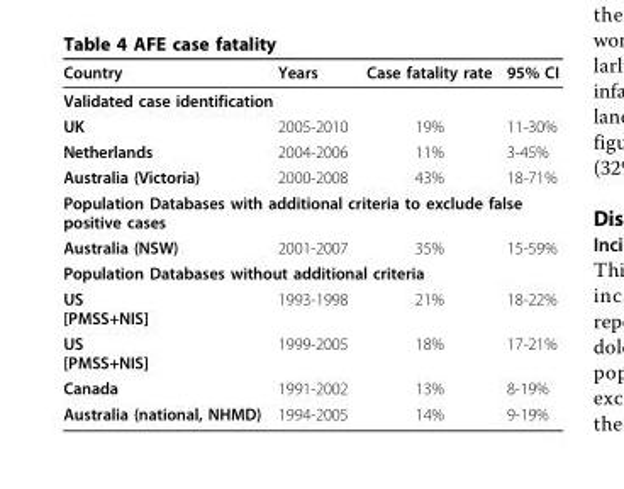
<table><thead><tr><td>Country</td><td>Years</td><td>Case fatality rate</td><td>95% CI</td></tr></thead><tbody><tr><td colspan="4">Validated case identification</td></tr><tr><td>UK</td><td>2005-2010</td><td>19%</td><td>11-30%</td></tr><tr><td>Netherlands</td><td>2004-2006</td><td>11%</td><td>3-45%</td></tr><tr><td>Australia (Victoria)</td><td>2000-2008</td><td>43%</td><td>18-71%</td></tr><tr><td colspan="4">Population Databases with additional criteria to exclude false positive cases</td></tr><tr><td>Australia (NSW)</td><td>2001-2007</td><td>35%</td><td>15-59%</td></tr><tr><td colspan="4">Population Databases without additional criteria</td></tr><tr><td>US [PMSS+NIS]</td><td>1993-1998</td><td>21%</td><td>18-22%</td></tr><tr><td>US [PMSS+NIS]</td><td>1999-2005</td><td>18%</td><td>17-21%</td></tr><tr><td>Canada</td><td>1991-2002</td><td>13%</td><td>8-19%</td></tr><tr><td>Australia (national, NHMD)</td><td>1994-2005</td><td>14%</td><td>9-19%</td></tr></tbody></table>